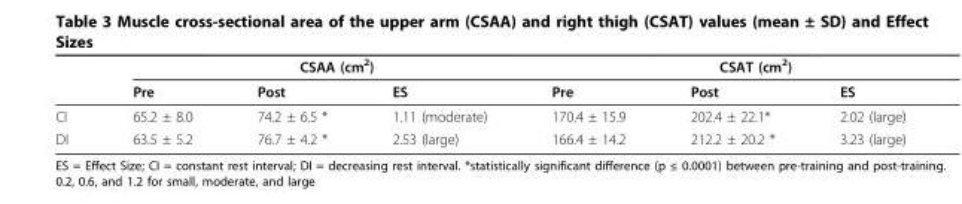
<table><thead><tr><td rowspan="2"></td><td colspan="3">CSAA (cm<sup>2</sup>)</td><td colspan="3">CSAT (cm<sup>2</sup>)</td></tr><tr><td>Pre</td><td>Post</td><td>ES</td><td>Pre</td><td>Post</td><td>ES</td></tr></thead><tbody><tr><td>CI</td><td>65.2 ± 8.0</td><td>74.2 ± 6.5 *</td><td>1.11 (moderate)</td><td>170.4 ± 15.9</td><td>202.4 ± 22.1*</td><td>2.02 (large)</td></tr><tr><td>DI</td><td>63.5 ± 5.2</td><td>76.7 ± 4.2 *</td><td>2.53 (large)</td><td>166.4 ± 14.2</td><td>212.2 ± 20.2 *</td><td>3.23 (large)</td></tr></tbody></table>